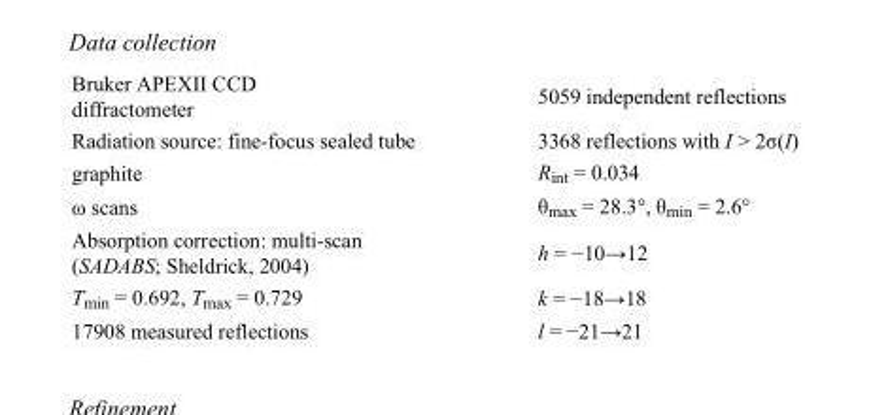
<table><tbody><tr><td>Bruker APEXII CCD diffractometer</td><td>5059 independent reflections</td></tr><tr><td>Radiation source: fine-focus sealed tube</td><td>3368 reflections with I &gt; 2σ(I)</td></tr><tr><td>graphite</td><td>R<sub>int</sub> = 0.034</td></tr><tr><td>ω scans</td><td>θ<sub>max</sub> = 28.3°, θ<sub>min</sub> = 2.6°</td></tr><tr><td>Absorption correction: multi-scan (SADABS; Sheldrick, 2004)</td><td>h = −10→12</td></tr><tr><td>T<sub>min</sub> = 0.692, T<sub>max</sub> = 0.729</td><td>k = −18→18</td></tr><tr><td>17908 measured reflections</td><td>l = −21→21</td></tr></tbody></table>